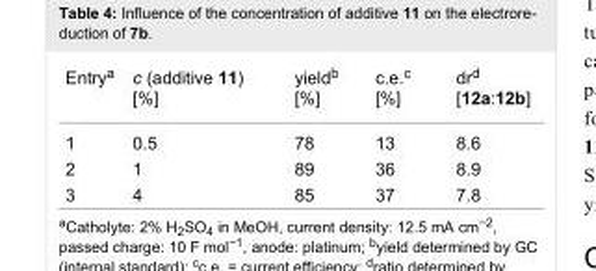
<table><tbody><tr><td>Entry<sup>a</sup></td><td>c (additive 11) [%]</td><td>yield<sup>b</sup> [%]</td><td>c.e.<sup>c</sup> [%]</td><td>dr<sup>d</sup> [12a:12b]</td></tr><tr><td>1</td><td>0.5</td><td>78</td><td>13</td><td>8.6</td></tr><tr><td>2</td><td>1</td><td>89</td><td>36</td><td>8.9</td></tr><tr><td>3</td><td>4</td><td>85</td><td>37</td><td>7.8</td></tr></tbody></table>